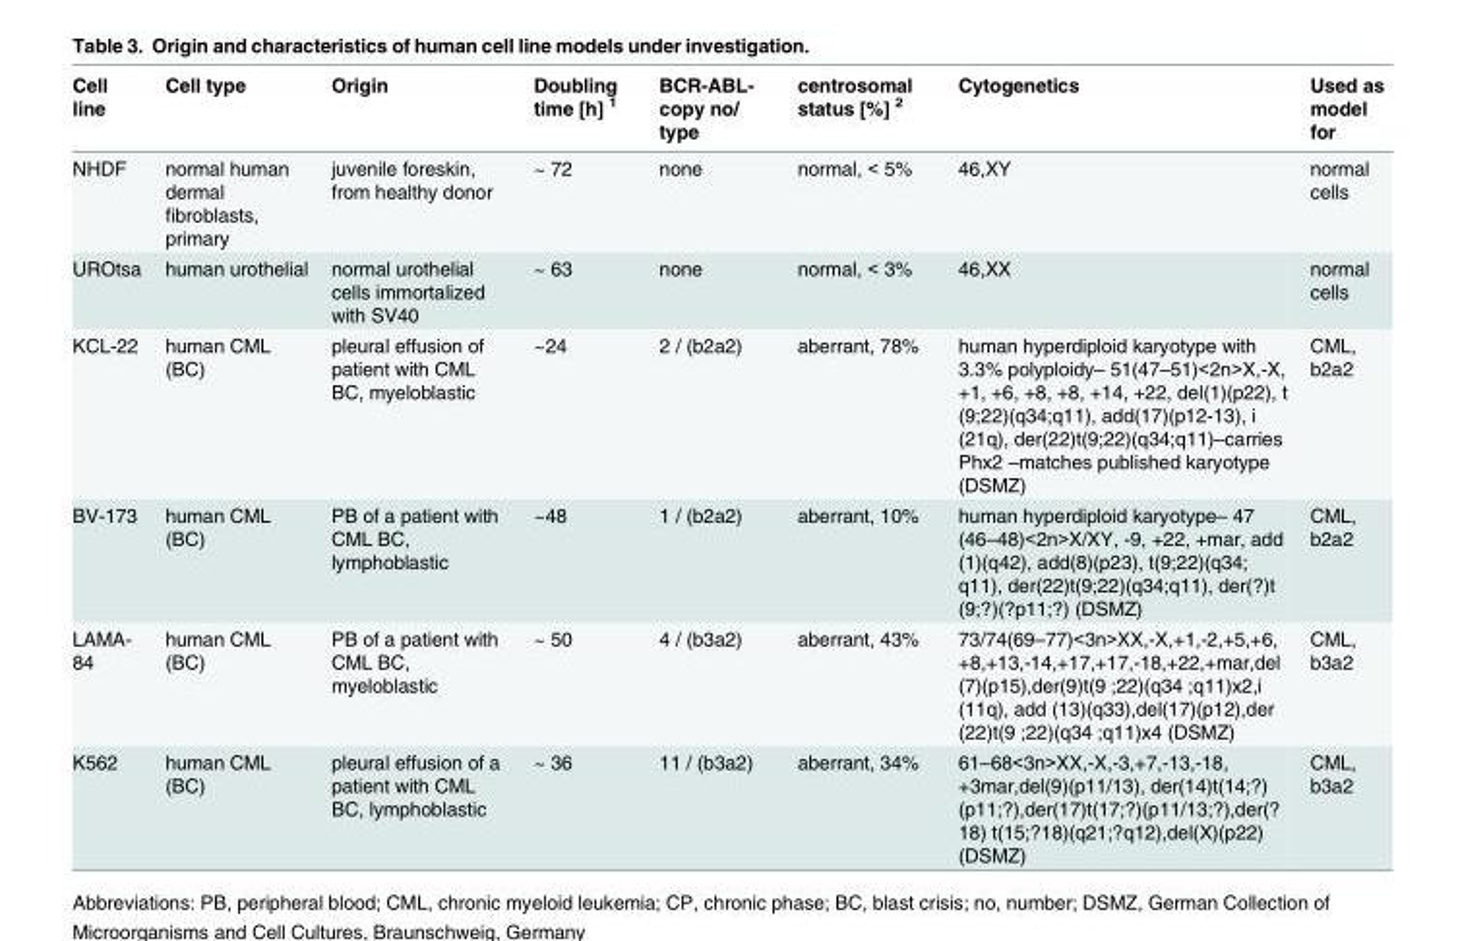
<table><thead><tr><td>Cell line</td><td>Cell type</td><td>Origin</td><td>Doubling time [h] <sup>1</sup></td><td>BCR-ABL- copy no/ type</td><td>centrosomal status [%] <sup>2</sup></td><td>Cytogenetics</td><td>Used as model for</td></tr></thead><tbody><tr><td>NHDF</td><td>normal human dermal fibroblasts, primary</td><td>juvenile foreskin, from healthy donor</td><td>~ 72</td><td>none</td><td>normal, &lt; 5%</td><td>46,XY</td><td>normal cells</td></tr><tr><td>UROtsa</td><td>human urothelial</td><td>normal urothelial cells immortalized with SV40</td><td>~ 63</td><td>none</td><td>normal, &lt; 3%</td><td>46,XX</td><td>normal cells</td></tr><tr><td>KCL-22</td><td>human CML (BC)</td><td>pleural effusion of patient with CML BC, myeloblastic</td><td>~24</td><td>2 / (b2a2)</td><td>aberrant, 78%</td><td>human hyperdiploid karyotype with 3.3% polyploidy– 51(47–51)&lt;2n&gt;X,-X, +1, +6, +8, +8, +14, +22, del(1)(p22), t (9;22)(q34;q11), add(17)(p12-13), i (21q), der(22)t(9;22)(q34;q11)–carries Phx2 –matches published karyotype (DSMZ)</td><td>CML, b2a2</td></tr><tr><td>BV-173</td><td>human CML (BC)</td><td>PB of a patient with CML BC, lymphoblastic</td><td>~48</td><td>1 / (b2a2)</td><td>aberrant, 10%</td><td>human hyperdiploid karyotype– 47 (46–48)&lt;2n&gt;X/XY, -9, +22, +mar, add (1)(q42), add(8)(p23), t(9;22)(q34; q11), der(22)t(9;22)(q34;q11), der(?)t (9;?)(?p11;?) (DSMZ)</td><td>CML, b2a2</td></tr><tr><td>LAMA- 84</td><td>human CML (BC)</td><td>PB of a patient with CML BC, myeloblastic</td><td>~ 50</td><td>4 / (b3a2)</td><td>aberrant, 43%</td><td>73/74(69–77)&lt;3n&gt;XX,-X,+1,-2,+5,+6, +8,+13,-14,+17,+17,-18,+22,+mar,del (7)(p15),der(9)t(9 ;22)(q34 ;q11)x2,i (11q), add (13)(q33),del(17)(p12),der (22)t(9 ;22)(q34 ;q11)x4 (DSMZ)</td><td>CML, b3a2</td></tr><tr><td>K562</td><td>human CML (BC)</td><td>pleural effusion of a patient with CML BC, lymphoblastic</td><td>~ 36</td><td>11 / (b3a2)</td><td>aberrant, 34%</td><td>61–68&lt;3n&gt;XX,-X,-3,+7,-13,-18, +3mar,del(9)(p11/13), der(14)t(14;?) (p11;?),der(17)t(17;?)(p11/13;?),der(? 18) t(15;?18)(q21;?q12),del(X)(p22) (DSMZ)</td><td>CML, b3a2</td></tr></tbody></table>